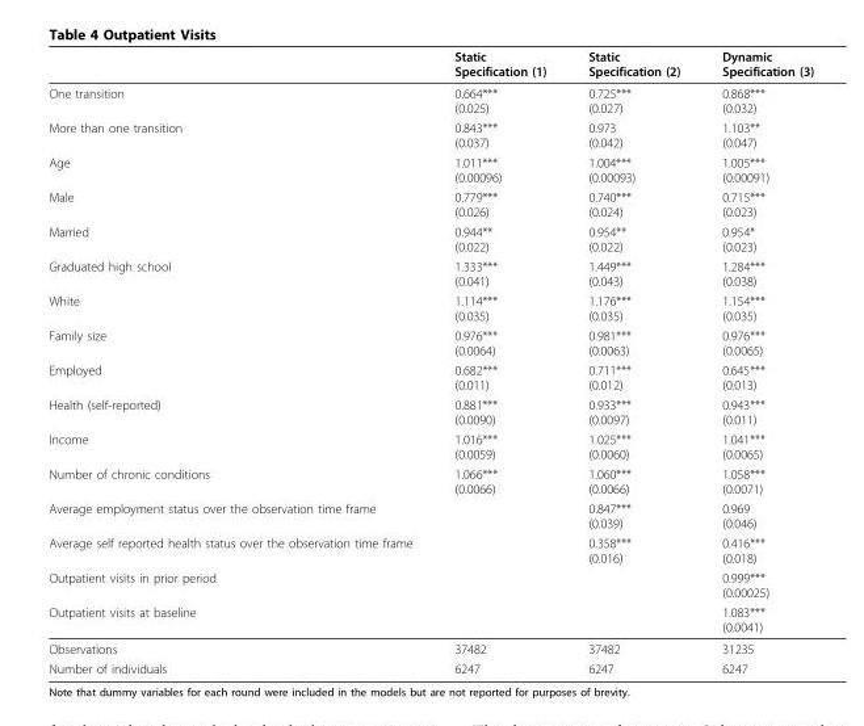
<table><thead><tr><td></td><td>Static Specification (1)</td><td>Static Specification (2)</td><td>Dynamic Specification (3)</td></tr></thead><tbody><tr><td>One transition</td><td>0.664*** (0.025)</td><td>0.725*** (0.027)</td><td>0.868*** (0.032)</td></tr><tr><td>More than one transition</td><td>0.843*** (0.037)</td><td>0.973 (0.042)</td><td>1.103** (0.047)</td></tr><tr><td>Age</td><td>1.011*** (0.00096)</td><td>1.004*** (0.00093)</td><td>1.005*** (0.00091)</td></tr><tr><td>Male</td><td>0.779*** (0.026)</td><td>0.740*** (0.024)</td><td>0.715*** (0.023)</td></tr><tr><td>Married</td><td>0.944** (0.022)</td><td>0.954** (0.022)</td><td>0.954* (0.023)</td></tr><tr><td>Graduated high school</td><td>1.333*** (0.041)</td><td>1.449*** (0.043)</td><td>1.284*** (0.038)</td></tr><tr><td>White</td><td>1.114*** (0.035)</td><td>1.176*** (0.035)</td><td>1.154*** (0.035)</td></tr><tr><td>Family size</td><td>0.976*** (0.0064)</td><td>0.981*** (0.0063)</td><td>0.976*** (0.0065)</td></tr><tr><td>Employed</td><td>0.682*** (0.011)</td><td>0.711*** (0.012)</td><td>0.645*** (0.013)</td></tr><tr><td>Health (self-reported)</td><td>0.881*** (0.0090)</td><td>0.933*** (0.0097)</td><td>0.943*** (0.011)</td></tr><tr><td>Income</td><td>1.016*** (0.0059)</td><td>1.025*** (0.0060)</td><td>1.041*** (0.0065)</td></tr><tr><td>Number of chronic conditions</td><td>1.066*** (0.0066)</td><td>1.060*** (0.0066)</td><td>1.058*** (0.0071)</td></tr><tr><td>Average employment status over the observation time frame</td><td></td><td>0.847*** (0.039)</td><td>0.969 (0.046)</td></tr><tr><td>Average self reported health status over the observation time frame</td><td></td><td>0.358*** (0.016)</td><td>0.416*** (0.018)</td></tr><tr><td>Outpatient visits in prior period</td><td></td><td></td><td>0.999*** (0.00025)</td></tr><tr><td>Outpatient visits at baseline</td><td></td><td></td><td>1.083*** (0.0041)</td></tr><tr><td>Observations</td><td>37482</td><td>37482</td><td>31235</td></tr><tr><td>Number of individuals</td><td>6247</td><td>6247</td><td>6247</td></tr></tbody></table>